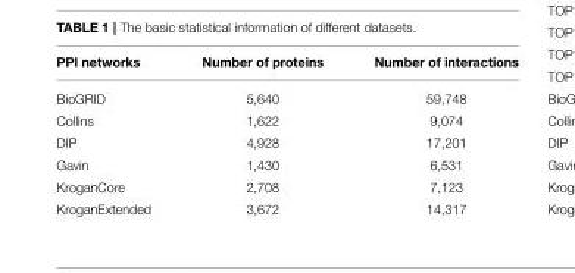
<table><thead><tr><td>PPI networks</td><td>Number of proteins</td><td>Number of interactions</td></tr></thead><tbody><tr><td>BioGRID</td><td>5,640</td><td>59,748</td></tr><tr><td>Collins</td><td>1,622</td><td>9,074</td></tr><tr><td>DIP</td><td>4,928</td><td>17,201</td></tr><tr><td>Gavin</td><td>1,430</td><td>6,531</td></tr><tr><td>KroganCore</td><td>2,708</td><td>7,123</td></tr><tr><td>KroganExtended</td><td>3,672</td><td>14,317</td></tr></tbody></table>